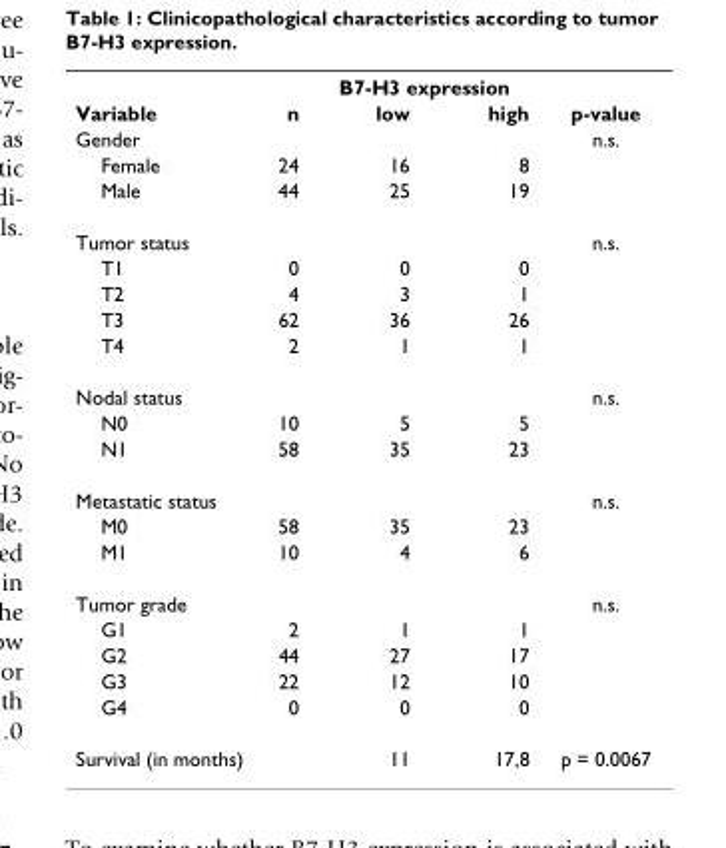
<table><thead><tr><td rowspan="2">Variable</td><td rowspan="2">n</td><td colspan="2">B7-H3 expression</td><td rowspan="2">p-value</td></tr><tr><td>low</td><td>high</td></tr></thead><tbody><tr><td>Gender</td><td></td><td></td><td></td><td>n.s.</td></tr><tr><td>Female</td><td>24</td><td>16</td><td>8</td><td></td></tr><tr><td>Male</td><td>44</td><td>25</td><td>19</td><td></td></tr><tr><td>Tumor status</td><td></td><td></td><td></td><td>n.s.</td></tr><tr><td>T1</td><td>0</td><td>0</td><td>0</td><td></td></tr><tr><td>T2</td><td>4</td><td>3</td><td>1</td><td></td></tr><tr><td>T3</td><td>62</td><td>36</td><td>26</td><td></td></tr><tr><td>T4</td><td>2</td><td>1</td><td>1</td><td></td></tr><tr><td>Nodal status</td><td></td><td></td><td></td><td>n.s.</td></tr><tr><td>N0</td><td>10</td><td>5</td><td>5</td><td></td></tr><tr><td>N1</td><td>58</td><td>35</td><td>23</td><td></td></tr><tr><td>Metastatic status</td><td></td><td></td><td></td><td>n.s.</td></tr><tr><td>M0</td><td>58</td><td>35</td><td>23</td><td></td></tr><tr><td>M1</td><td>10</td><td>4</td><td>6</td><td></td></tr><tr><td>Tumor grade</td><td></td><td></td><td></td><td>n.s.</td></tr><tr><td>G1</td><td>2</td><td>1</td><td>1</td><td></td></tr><tr><td>G2</td><td>44</td><td>27</td><td>17</td><td></td></tr><tr><td>G3</td><td>22</td><td>12</td><td>10</td><td></td></tr><tr><td>G4</td><td>0</td><td>0</td><td>0</td><td></td></tr><tr><td colspan="2">Survival (in months)</td><td>11</td><td>17,8</td><td>p = 0.0067</td></tr></tbody></table>